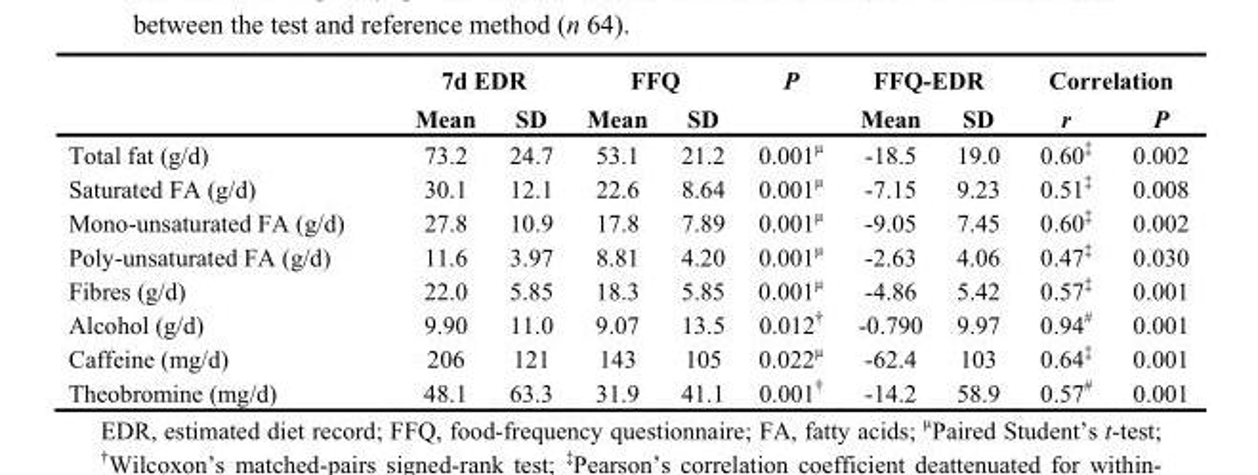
<table><thead><tr><td rowspan="2"></td><td colspan="2">7d EDR</td><td colspan="2">FFQ</td><td rowspan="2">P</td><td colspan="2">FFQ-EDR</td><td colspan="2">Correlation</td></tr><tr><td>Mean</td><td>SD</td><td>Mean</td><td>SD</td><td>Mean</td><td>SD</td><td>r</td><td>P</td></tr></thead><tbody><tr><td>Total fat (g/d)</td><td>73.2</td><td>24.7</td><td>53.1</td><td>21.2</td><td>0.001µ</td><td>-18.5</td><td>19.0</td><td>0.60‡</td><td>0.002</td></tr><tr><td>Saturated FA (g/d)</td><td>30.1</td><td>12.1</td><td>22.6</td><td>8.64</td><td>0.001µ</td><td>-7.15</td><td>9.23</td><td>0.51‡</td><td>0.008</td></tr><tr><td>Mono-unsaturated FA (g/d)</td><td>27.8</td><td>10.9</td><td>17.8</td><td>7.89</td><td>0.001µ</td><td>-9.05</td><td>7.45</td><td>0.60‡</td><td>0.002</td></tr><tr><td>Poly-unsaturated FA (g/d)</td><td>11.6</td><td>3.97</td><td>8.81</td><td>4.20</td><td>0.001µ</td><td>-2.63</td><td>4.06</td><td>0.47‡</td><td>0.030</td></tr><tr><td>Fibres (g/d)</td><td>22.0</td><td>5.85</td><td>18.3</td><td>5.85</td><td>0.001µ</td><td>-4.86</td><td>5.42</td><td>0.57‡</td><td>0.001</td></tr><tr><td>Alcohol (g/d)</td><td>9.90</td><td>11.0</td><td>9.07</td><td>13.5</td><td>0.012†</td><td>-0.790</td><td>9.97</td><td>0.94#</td><td>0.001</td></tr><tr><td>Caffeine (mg/d)</td><td>206</td><td>121</td><td>143</td><td>105</td><td>0.022µ</td><td>-62.4</td><td>103</td><td>0.64‡</td><td>0.001</td></tr><tr><td>Theobromine (mg/d)</td><td>48.1</td><td>63.3</td><td>31.9</td><td>41.1</td><td>0.001†</td><td>-14.2</td><td>58.9</td><td>0.57#</td><td>0.001</td></tr></tbody></table>